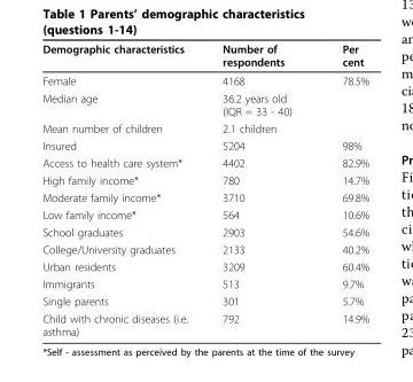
<table><thead><tr><td>Demographic characteristics</td><td>Number of respondents</td><td>Per cent</td></tr></thead><tbody><tr><td>Female</td><td>4168</td><td>78.5%</td></tr><tr><td>Median age</td><td>36.2 years old (IQR = 33 - 40)</td><td></td></tr><tr><td>Mean number of children</td><td>2.1 children</td><td></td></tr><tr><td>Insured</td><td>5204</td><td>98%</td></tr><tr><td>Access to health care system*</td><td>4402</td><td>82.9%</td></tr><tr><td>High family income*</td><td>780</td><td>14.7%</td></tr><tr><td>Moderate family income*</td><td>3710</td><td>69.8%</td></tr><tr><td>Low family income*</td><td>564</td><td>10.6%</td></tr><tr><td>School graduates</td><td>2903</td><td>54.6%</td></tr><tr><td>College/University graduates</td><td>2133</td><td>40.2%</td></tr><tr><td>Urban residents</td><td>3209</td><td>60.4%</td></tr><tr><td>Immigrants</td><td>513</td><td>9.7%</td></tr><tr><td>Single parents</td><td>301</td><td>5.7%</td></tr><tr><td>Child with chronic diseases (i.e. asthma)</td><td>792</td><td>14.9%</td></tr></tbody></table>